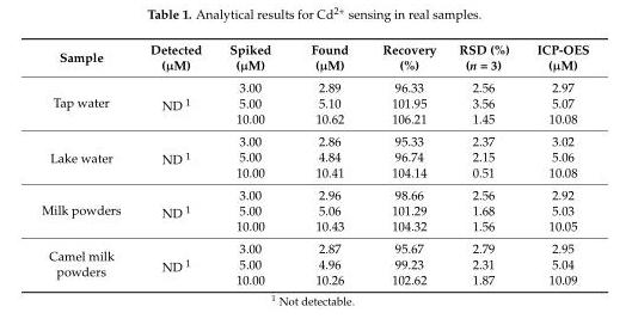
<table><thead><tr><td>Sample</td><td>Detected (µM)</td><td>Spiked (µM)</td><td>Found (µM)</td><td>Recovery (%)</td><td>RSD (%) (n = 3)</td><td>ICP-OES (µM)</td></tr></thead><tbody><tr><td rowspan="3">Tap water</td><td rowspan="3">ND <sup>1</sup></td><td>3.00</td><td>2.89</td><td>96.33</td><td>2.56</td><td>2.97</td></tr><tr><td>5.00</td><td>5.10</td><td>101.95</td><td>3.56</td><td>5.07</td></tr><tr><td>10.00</td><td>10.62</td><td>106.21</td><td>1.45</td><td>10.08</td></tr><tr><td rowspan="3">Lake water</td><td rowspan="3">ND <sup>1</sup></td><td>3.00</td><td>2.86</td><td>95.33</td><td>2.37</td><td>3.02</td></tr><tr><td>5.00</td><td>4.84</td><td>96.74</td><td>2.15</td><td>5.06</td></tr><tr><td>10.00</td><td>10.41</td><td>104.14</td><td>0.51</td><td>10.08</td></tr><tr><td rowspan="3">Milk powders</td><td rowspan="3">ND <sup>1</sup></td><td>3.00</td><td>2.96</td><td>98.66</td><td>2.56</td><td>2.92</td></tr><tr><td>5.00</td><td>5.06</td><td>101.29</td><td>1.68</td><td>5.03</td></tr><tr><td>10.00</td><td>10.43</td><td>104.32</td><td>1.56</td><td>10.05</td></tr><tr><td rowspan="3">Camel milk powders</td><td rowspan="3">ND <sup>1</sup></td><td>3.00</td><td>2.87</td><td>95.67</td><td>2.79</td><td>2.95</td></tr><tr><td>5.00</td><td>4.96</td><td>99.23</td><td>2.31</td><td>5.04</td></tr><tr><td>10.00</td><td>10.26</td><td>102.62</td><td>1.87</td><td>10.09</td></tr></tbody></table>